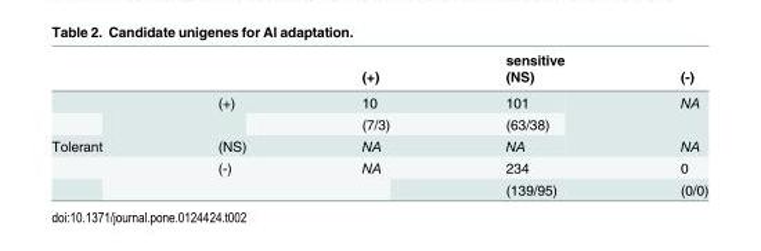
<table><thead><tr><td rowspan="2"></td><td rowspan="2"></td><td rowspan="2">(+)</td><td rowspan="2">sensitive (NS)</td><td rowspan="2">(-)</td></tr><tr></tr></thead><tbody><tr><td></td><td rowspan="2">(+)</td><td>10</td><td>101</td><td rowspan="2">NA</td></tr><tr><td></td><td>(7/3)</td><td>(63/38)</td></tr><tr><td rowspan="3">Tolerant</td><td>(NS)</td><td>NA</td><td>NA</td><td>NA</td></tr><tr><td rowspan="2">(-)</td><td rowspan="2">NA</td><td>234</td><td>0</td></tr><tr><td>(139/95)</td><td>(0/0)</td></tr></tbody></table>